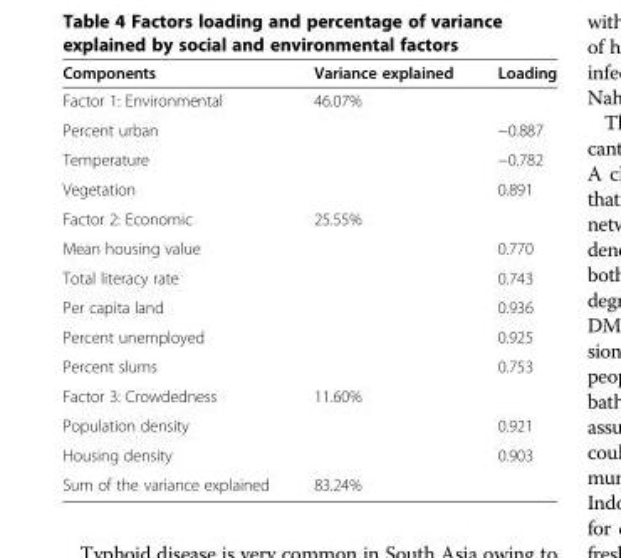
<table><thead><tr><td>Components</td><td>Variance explained</td><td>Loading</td></tr></thead><tbody><tr><td>Factor 1: Environmental</td><td>46.07%</td><td></td></tr><tr><td>Percent urban</td><td></td><td>−0.887</td></tr><tr><td>Temperature</td><td></td><td>−0.782</td></tr><tr><td>Vegetation</td><td></td><td>0.891</td></tr><tr><td>Factor 2: Economic</td><td>25.55%</td><td></td></tr><tr><td>Mean housing value</td><td></td><td>0.770</td></tr><tr><td>Total literacy rate</td><td></td><td>0.743</td></tr><tr><td>Per capita land</td><td></td><td>0.936</td></tr><tr><td>Percent unemployed</td><td></td><td>0.925</td></tr><tr><td>Percent slums</td><td></td><td>0.753</td></tr><tr><td>Factor 3: Crowdedness</td><td>11.60%</td><td></td></tr><tr><td>Population density</td><td></td><td>0.921</td></tr><tr><td>Housing density</td><td></td><td>0.903</td></tr><tr><td>Sum of the variance explained</td><td>83.24%</td><td></td></tr></tbody></table>